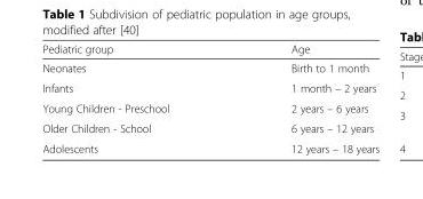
<table><thead><tr><td>Pediatric group</td><td>Age</td></tr></thead><tbody><tr><td>Neonates</td><td>Birth to 1 month</td></tr><tr><td>Infants</td><td>1 month – 2 years</td></tr><tr><td>Young Children - Preschool</td><td>2 years – 6 years</td></tr><tr><td>Older Children - School</td><td>6 years – 12 years</td></tr><tr><td>Adolescents</td><td>12 years – 18 years</td></tr></tbody></table>